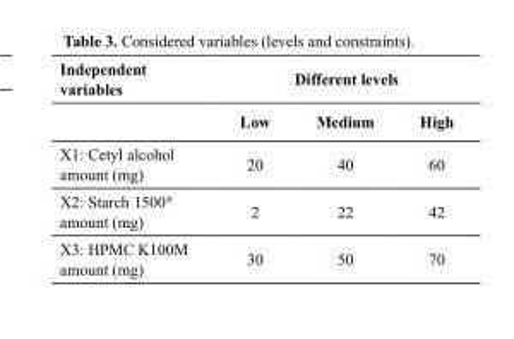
<table><thead><tr><td rowspan="2">Independent variables</td><td colspan="3">Different levels</td></tr><tr><td>Low</td><td>Medium</td><td>High</td></tr></thead><tbody><tr><td>X<sub>1</sub>: Cetyl alcohol amount (mg)</td><td>20</td><td>40</td><td>60</td></tr><tr><td>X<sub>2</sub>: Starch 1500<sup>®</sup> amount (mg)</td><td>2</td><td>22</td><td>42</td></tr><tr><td>X<sub>3</sub>: HPMC K100M amount (mg)</td><td>30</td><td>50</td><td>70</td></tr></tbody></table>